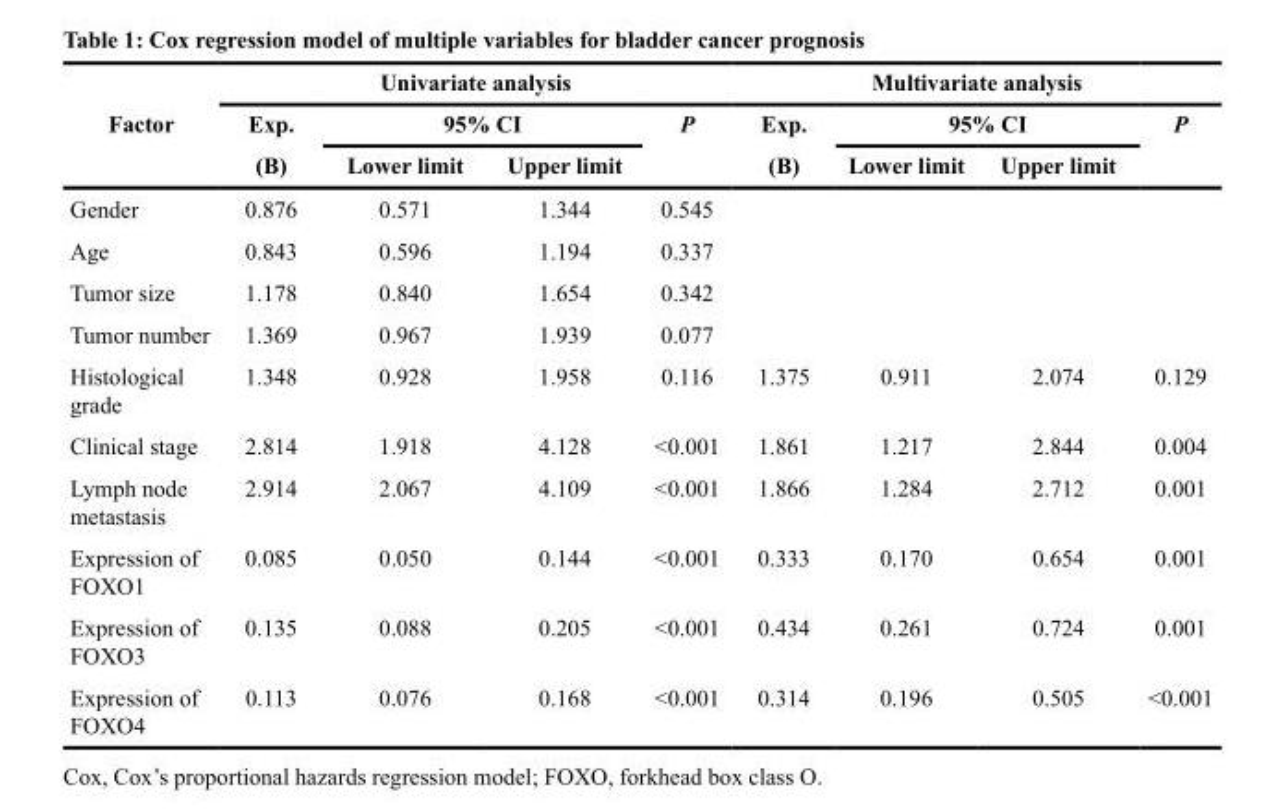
<table><thead><tr><td rowspan="3">Factor</td><td colspan="4">Univariate analysis</td><td colspan="4">Multivariate analysis</td></tr><tr><td rowspan="2">Exp. (B)</td><td colspan="2">95% CI</td><td rowspan="2">P</td><td rowspan="2">Exp. (B)</td><td colspan="2">95% CI</td><td rowspan="2">P</td></tr><tr><td>Lower limit</td><td>Upper limit</td><td>Lower limit</td><td>Upper limit</td></tr></thead><tbody><tr><td>Gender</td><td>0.876</td><td>0.571</td><td>1.344</td><td>0.545</td><td></td><td></td><td></td><td></td></tr><tr><td>Age</td><td>0.843</td><td>0.596</td><td>1.194</td><td>0.337</td><td></td><td></td><td></td><td></td></tr><tr><td>Tumor size</td><td>1.178</td><td>0.840</td><td>1.654</td><td>0.342</td><td></td><td></td><td></td><td></td></tr><tr><td>Tumor number</td><td>1.369</td><td>0.967</td><td>1.939</td><td>0.077</td><td></td><td></td><td></td><td></td></tr><tr><td>Histological grade</td><td>1.348</td><td>0.928</td><td>1.958</td><td>0.116</td><td>1.375</td><td>0.911</td><td>2.074</td><td>0.129</td></tr><tr><td>Clinical stage</td><td>2.814</td><td>1.918</td><td>4.128</td><td>&lt;0.001</td><td>1.861</td><td>1.217</td><td>2.844</td><td>0.004</td></tr><tr><td>Lymph node metastasis</td><td>2.914</td><td>2.067</td><td>4.109</td><td>&lt;0.001</td><td>1.866</td><td>1.284</td><td>2.712</td><td>0.001</td></tr><tr><td>Expression of FOXO1</td><td>0.085</td><td>0.050</td><td>0.144</td><td>&lt;0.001</td><td>0.333</td><td>0.170</td><td>0.654</td><td>0.001</td></tr><tr><td>Expression of FOXO3</td><td>0.135</td><td>0.088</td><td>0.205</td><td>&lt;0.001</td><td>0.434</td><td>0.261</td><td>0.724</td><td>0.001</td></tr><tr><td>Expression of FOXO4</td><td>0.113</td><td>0.076</td><td>0.168</td><td>&lt;0.001</td><td>0.314</td><td>0.196</td><td>0.505</td><td>&lt;0.001</td></tr></tbody></table>